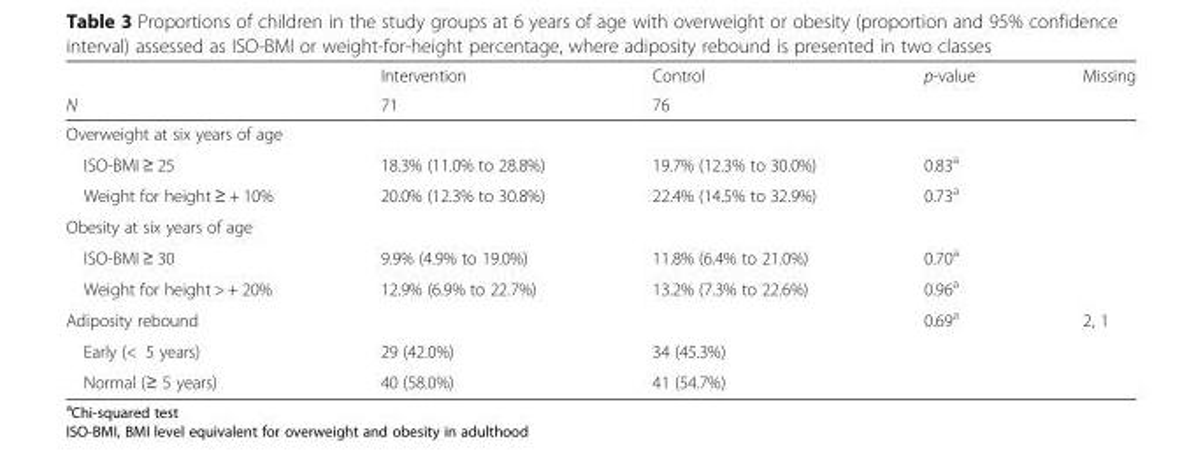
<table><thead><tr><td rowspan="2">N</td><td rowspan="2">Intervention 71</td><td rowspan="2">Control 76</td><td rowspan="2">p-value</td><td rowspan="2">Missing</td></tr><tr></tr></thead><tbody><tr><td colspan="5">Overweight at six years of age</td></tr><tr><td>ISO-BMI ≥ 25</td><td>18.3% (11.0% to 28.8%)</td><td>19.7% (12.3% to 30.0%)</td><td>0.83<sup>a</sup></td><td></td></tr><tr><td>Weight for height ≥ + 10%</td><td>20.0% (12.3% to 30.8%)</td><td>22.4% (14.5% to 32.9%)</td><td>0.73<sup>a</sup></td><td></td></tr><tr><td colspan="5">Obesity at six years of age</td></tr><tr><td>ISO-BMI ≥ 30</td><td>9.9% (4.9% to 19.0%)</td><td>11.8% (6.4% to 21.0%)</td><td>0.70<sup>a</sup></td><td></td></tr><tr><td>Weight for height &gt; + 20%</td><td>12.9% (6.9% to 22.7%)</td><td>13.2% (7.3% to 22.6%)</td><td>0.96<sup>a</sup></td><td></td></tr><tr><td>Adiposity rebound</td><td></td><td></td><td>0.69<sup>a</sup></td><td>2, 1</td></tr><tr><td>Early (&lt; 5 years)</td><td>29 (42.0%)</td><td>34 (45.3%)</td><td></td><td></td></tr><tr><td>Normal (≥ 5 years)</td><td>40 (58.0%)</td><td>41 (54.7%)</td><td></td><td></td></tr></tbody></table>